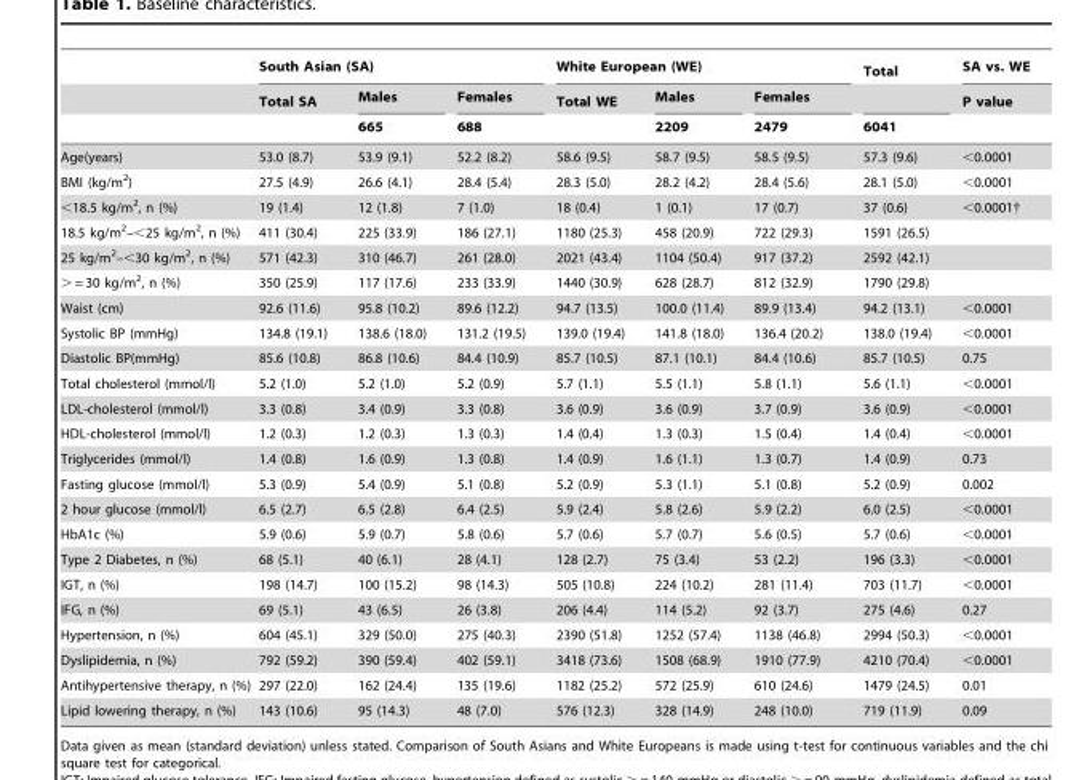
<table><thead><tr><td rowspan="3"></td><td colspan="3">South Asian (SA)</td><td colspan="3">White European (WE)</td><td rowspan="3">Total 6041</td><td rowspan="3">SA vs. WE P value</td></tr><tr><td rowspan="2">Total SA</td><td rowspan="2">Males 665</td><td rowspan="2">Females 688</td><td rowspan="2">Total WE</td><td rowspan="2">Males 2209</td><td rowspan="2">Females 2479</td></tr><tr></tr></thead><tbody><tr><td>Age(years)</td><td>53.0 (8.7)</td><td>53.9 (9.1)</td><td>52.2 (8.2)</td><td>58.6 (9.5)</td><td>58.7 (9.5)</td><td>58.5 (9.5)</td><td>57.3 (9.6)</td><td>&lt;0.0001</td></tr><tr><td>BMI (kg/m<sup>2</sup>)</td><td>27.5 (4.9)</td><td>26.6 (4.1)</td><td>28.4 (5.4)</td><td>28.3 (5.0)</td><td>28.2 (4.2)</td><td>28.4 (5.6)</td><td>28.1 (5.0)</td><td>&lt;0.0001</td></tr><tr><td>&lt;18.5 kg/m<sup>2</sup>, n (%)</td><td>19 (1.4)</td><td>12 (1.8)</td><td>7 (1.0)</td><td>18 (0.4)</td><td>1 (0.1)</td><td>17 (0.7)</td><td>37 (0.6)</td><td>&lt;0.0001†</td></tr><tr><td>18.5 kg/m<sup>2</sup>–&lt;25 kg/m<sup>2</sup>, n (%)</td><td>411 (30.4)</td><td>225 (33.9)</td><td>186 (27.1)</td><td>1180 (25.3)</td><td>458 (20.9)</td><td>722 (29.3)</td><td>1591 (26.5)</td><td></td></tr><tr><td>25 kg/m<sup>2</sup>–&lt;30 kg/m<sup>2</sup>, n (%)</td><td>571 (42.3)</td><td>310 (46.7)</td><td>261 (28.0)</td><td>2021 (43.4)</td><td>1104 (50.4)</td><td>917 (37.2)</td><td>2592 (42.1)</td><td></td></tr><tr><td>&gt; = 30 kg/m<sup>2</sup>, n (%)</td><td>350 (25.9)</td><td>117 (17.6)</td><td>233 (33.9)</td><td>1440 (30.9)</td><td>628 (28.7)</td><td>812 (32.9)</td><td>1790 (29.8)</td><td></td></tr><tr><td>Waist (cm)</td><td>92.6 (11.6)</td><td>95.8 (10.2)</td><td>89.6 (12.2)</td><td>94.7 (13.5)</td><td>100.0 (11.4)</td><td>89.9 (13.4)</td><td>94.2 (13.1)</td><td>&lt;0.0001</td></tr><tr><td>Systolic BP (mmHg)</td><td>134.8 (19.1)</td><td>138.6 (18.0)</td><td>131.2 (19.5)</td><td>139.0 (19.4)</td><td>141.8 (18.0)</td><td>136.4 (20.2)</td><td>138.0 (19.4)</td><td>&lt;0.0001</td></tr><tr><td>Diastolic BP(mmHg)</td><td>85.6 (10.8)</td><td>86.8 (10.6)</td><td>84.4 (10.9)</td><td>85.7 (10.5)</td><td>87.1 (10.1)</td><td>84.4 (10.6)</td><td>85.7 (10.5)</td><td>0.75</td></tr><tr><td>Total cholesterol (mmol/l)</td><td>5.2 (1.0)</td><td>5.2 (1.0)</td><td>5.2 (0.9)</td><td>5.7 (1.1)</td><td>5.5 (1.1)</td><td>5.8 (1.1)</td><td>5.6 (1.1)</td><td>&lt;0.0001</td></tr><tr><td>LDL-cholesterol (mmol/l)</td><td>3.3 (0.8)</td><td>3.4 (0.9)</td><td>3.3 (0.8)</td><td>3.6 (0.9)</td><td>3.6 (0.9)</td><td>3.7 (0.9)</td><td>3.6 (0.9)</td><td>&lt;0.0001</td></tr><tr><td>HDL-cholesterol (mmol/l)</td><td>1.2 (0.3)</td><td>1.2 (0.3)</td><td>1.3 (0.3)</td><td>1.4 (0.4)</td><td>1.3 (0.3)</td><td>1.5 (0.4)</td><td>1.4 (0.4)</td><td>&lt;0.0001</td></tr><tr><td>Triglycerides (mmol/l)</td><td>1.4 (0.8)</td><td>1.6 (0.9)</td><td>1.3 (0.8)</td><td>1.4 (0.9)</td><td>1.6 (1.1)</td><td>1.3 (0.7)</td><td>1.4 (0.9)</td><td>0.73</td></tr><tr><td>Fasting glucose (mmol/l)</td><td>5.3 (0.9)</td><td>5.4 (0.9)</td><td>5.1 (0.8)</td><td>5.2 (0.9)</td><td>5.3 (1.1)</td><td>5.1 (0.8)</td><td>5.2 (0.9)</td><td>0.002</td></tr><tr><td>2 hour glucose (mmol/l)</td><td>6.5 (2.7)</td><td>6.5 (2.8)</td><td>6.4 (2.5)</td><td>5.9 (2.4)</td><td>5.8 (2.6)</td><td>5.9 (2.2)</td><td>6.0 (2.5)</td><td>&lt;0.0001</td></tr><tr><td>HbA1c (%)</td><td>5.9 (0.6)</td><td>5.9 (0.7)</td><td>5.8 (0.6)</td><td>5.7 (0.6)</td><td>5.7 (0.7)</td><td>5.6 (0.5)</td><td>5.7 (0.6)</td><td>&lt;0.0001</td></tr><tr><td>Type 2 Diabetes, n (%)</td><td>68 (5.1)</td><td>40 (6.1)</td><td>28 (4.1)</td><td>128 (2.7)</td><td>75 (3.4)</td><td>53 (2.2)</td><td>196 (3.3)</td><td>&lt;0.0001</td></tr><tr><td>IGT, n (%)</td><td>198 (14.7)</td><td>100 (15.2)</td><td>98 (14.3)</td><td>505 (10.8)</td><td>224 (10.2)</td><td>281 (11.4)</td><td>703 (11.7)</td><td>&lt;0.0001</td></tr><tr><td>IFG, n (%)</td><td>69 (5.1)</td><td>43 (6.5)</td><td>26 (3.8)</td><td>206 (4.4)</td><td>114 (5.2)</td><td>92 (3.7)</td><td>275 (4.6)</td><td>0.27</td></tr><tr><td>Hypertension, n (%)</td><td>604 (45.1)</td><td>329 (50.0)</td><td>275 (40.3)</td><td>2390 (51.8)</td><td>1252 (57.4)</td><td>1138 (46.8)</td><td>2994 (50.3)</td><td>&lt;0.0001</td></tr><tr><td>Dyslipidemia, n (%)</td><td>792 (59.2)</td><td>390 (59.4)</td><td>402 (59.1)</td><td>3418 (73.6)</td><td>1508 (68.9)</td><td>1910 (77.9)</td><td>4210 (70.4)</td><td>&lt;0.0001</td></tr><tr><td>Antihypertensive therapy, n (%)</td><td>297 (22.0)</td><td>162 (24.4)</td><td>135 (19.6)</td><td>1182 (25.2)</td><td>572 (25.9)</td><td>610 (24.6)</td><td>1479 (24.5)</td><td>0.01</td></tr><tr><td>Lipid lowering therapy, n (%)</td><td>143 (10.6)</td><td>95 (14.3)</td><td>48 (7.0)</td><td>576 (12.3)</td><td>328 (14.9)</td><td>248 (10.0)</td><td>719 (11.9)</td><td>0.09</td></tr></tbody></table>